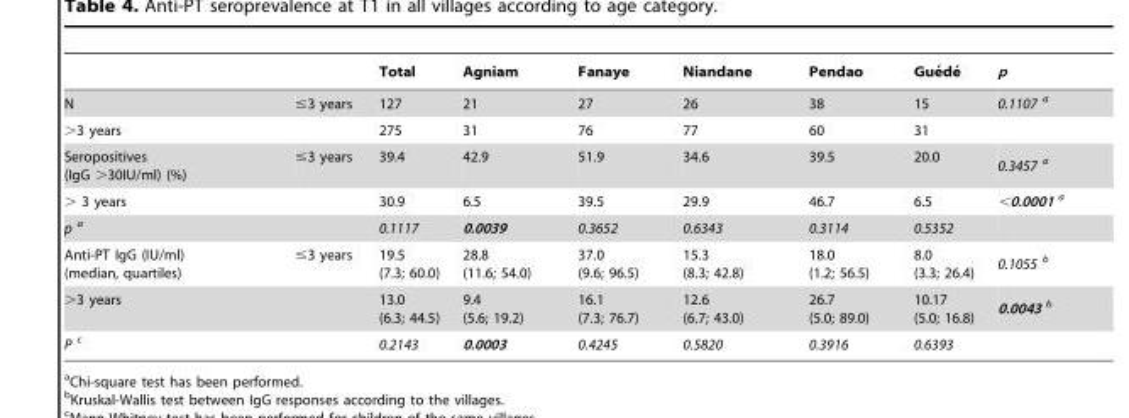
<table><thead><tr><td></td><td></td><td>Total</td><td>Agniam</td><td>Fanaye</td><td>Niandane</td><td>Pendao</td><td>Gue´de´</td><td>p</td></tr></thead><tbody><tr><td>N</td><td>≤3 years</td><td>127</td><td>21</td><td>27</td><td>26</td><td>38</td><td>15</td><td>0.1107 a</td></tr><tr><td colspan="2">&gt;3 years</td><td>275</td><td>31</td><td>76</td><td>77</td><td>60</td><td>31</td><td></td></tr><tr><td>Seropositives (IgG &gt;30IU/ml) (%)</td><td>≤3 years</td><td>39.4</td><td>42.9</td><td>51.9</td><td>34.6</td><td>39.5</td><td>20.0</td><td>0.3457 a</td></tr><tr><td colspan="2">&gt; 3 years</td><td>30.9</td><td>6.5</td><td>39.5</td><td>29.9</td><td>46.7</td><td>6.5</td><td>&lt;0.0001 a</td></tr><tr><td colspan="2">p a</td><td>0.1117</td><td>0.0039</td><td>0.3652</td><td>0.6343</td><td>0.3114</td><td>0.5352</td><td></td></tr><tr><td>Anti-PT IgG (IU/ml) (median, quartiles)</td><td>≤3 years</td><td>19.5 (7.3; 60.0)</td><td>28.8 (11.6; 54.0)</td><td>37.0 (9.6; 96.5)</td><td>15.3 (8.3; 42.8)</td><td>18.0 (1.2; 56.5)</td><td>8.0 (3.3; 26.4)</td><td>0.1055 b</td></tr><tr><td colspan="2">&gt;3 years</td><td>13.0 (6.3; 44.5)</td><td>9.4 (5.6; 19.2)</td><td>16.1 (7.3; 76.7)</td><td>12.6 (6.7; 43.0)</td><td>26.7 (5.0; 89.0)</td><td>10.17 (5.0; 16.8)</td><td>0.0043 b</td></tr><tr><td colspan="2">P c</td><td>0.2143</td><td>0.0003</td><td>0.4245</td><td>0.5820</td><td>0.3916</td><td>0.6393</td><td></td></tr></tbody></table>